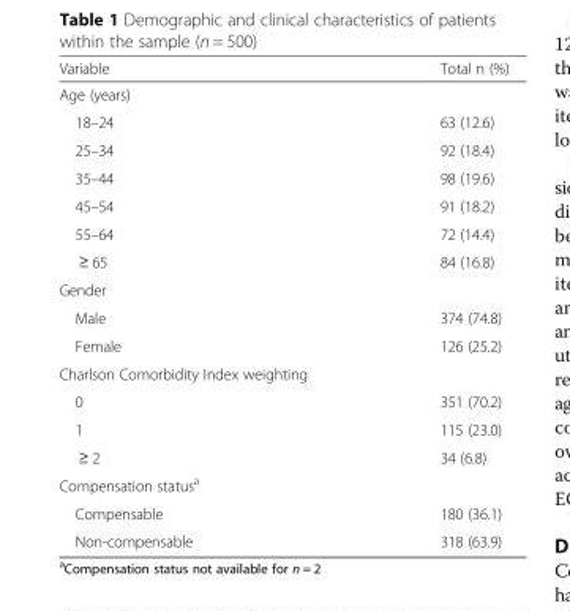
<table><thead><tr><td>Variable</td><td>Total n (%)</td></tr></thead><tbody><tr><td colspan="2">Age (years)</td></tr><tr><td>18–24</td><td>63 (12.6)</td></tr><tr><td>25–34</td><td>92 (18.4)</td></tr><tr><td>35–44</td><td>98 (19.6)</td></tr><tr><td>45–54</td><td>91 (18.2)</td></tr><tr><td>55–64</td><td>72 (14.4)</td></tr><tr><td>≥ 65</td><td>84 (16.8)</td></tr><tr><td colspan="2">Gender</td></tr><tr><td>Male</td><td>374 (74.8)</td></tr><tr><td>Female</td><td>126 (25.2)</td></tr><tr><td colspan="2">Charlson Comorbidity Index weighting</td></tr><tr><td>0</td><td>351 (70.2)</td></tr><tr><td>1</td><td>115 (23.0)</td></tr><tr><td>≥ 2</td><td>34 (6.8)</td></tr><tr><td colspan="2">Compensation status<sup>a</sup></td></tr><tr><td>Compensable</td><td>180 (36.1)</td></tr><tr><td>Non-compensable</td><td>318 (63.9)</td></tr></tbody></table>